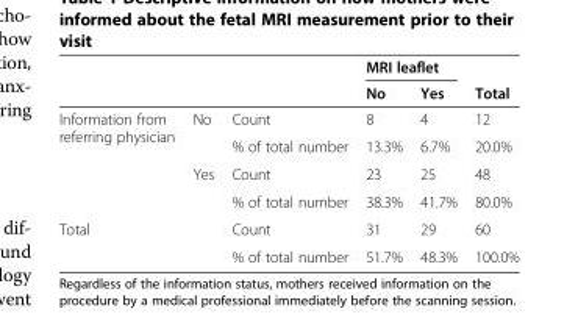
<table><thead><tr><td rowspan="2"></td><td rowspan="2"></td><td rowspan="2"></td><td colspan="2">MRI leaflet</td><td rowspan="2">Total</td></tr><tr><td>No</td><td>Yes</td></tr></thead><tbody><tr><td rowspan="4">Information from referring physician</td><td rowspan="2">No</td><td>Count</td><td>8</td><td>4</td><td>12</td></tr><tr><td>% of total number</td><td>13.3%</td><td>6.7%</td><td>20.0%</td></tr><tr><td rowspan="2">Yes</td><td>Count</td><td>23</td><td>25</td><td>48</td></tr><tr><td>% of total number</td><td>38.3%</td><td>41.7%</td><td>80.0%</td></tr><tr><td rowspan="2" colspan="2">Total</td><td>Count</td><td>31</td><td>29</td><td>60</td></tr><tr><td>% of total number</td><td>51.7%</td><td>48.3%</td><td>100.0%</td></tr></tbody></table>